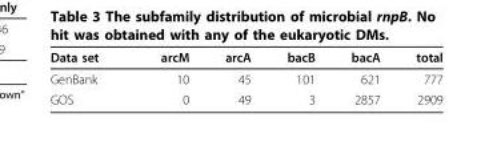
<table><thead><tr><td>Data set</td><td>arcM</td><td>arcA</td><td>bacB</td><td>bacA</td><td>total</td></tr></thead><tbody><tr><td>GenBank</td><td>10</td><td>45</td><td>101</td><td>621</td><td>777</td></tr><tr><td>GOS</td><td>0</td><td>49</td><td>3</td><td>2857</td><td>2909</td></tr></tbody></table>